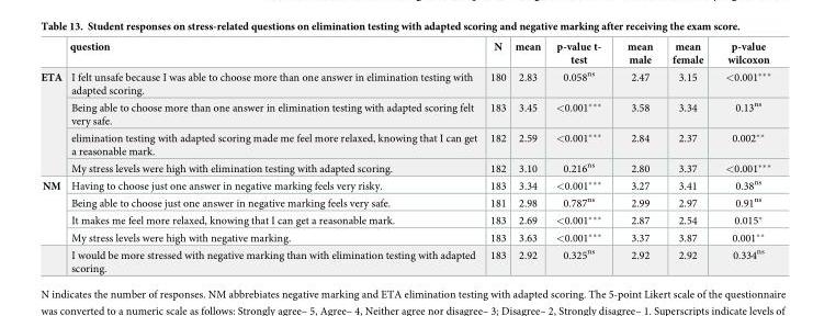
<table><thead><tr><td></td><td>question</td><td>N</td><td>mean</td><td>p-value t- test</td><td>mean male</td><td>mean female</td><td>p-value wilcoxon</td></tr></thead><tbody><tr><td rowspan="4">ETA</td><td>I felt unsafe because I was able to choose more than one answer in elimination testing with adapted scoring.</td><td>180</td><td>2.83</td><td>0.058<sup>ns</sup></td><td>2.47</td><td>3.15</td><td>&lt;0.001***</td></tr><tr><td>Being able to choose more than one answer in elimination testing with adapted scoring felt very safe.</td><td>183</td><td>3.45</td><td>&lt;0.001***</td><td>3.58</td><td>3.34</td><td>0.13<sup>ns</sup></td></tr><tr><td>elimination testing with adapted scoring made me feel more relaxed, knowing that I can get a reasonable mark.</td><td>182</td><td>2.59</td><td>&lt;0.001***</td><td>2.84</td><td>2.37</td><td>0.002**</td></tr><tr><td>My stress levels were high with elimination testing with adapted scoring.</td><td>182</td><td>3.10</td><td>0.216<sup>ns</sup></td><td>2.80</td><td>3.37</td><td>&lt;0.001***</td></tr><tr><td rowspan="5">NM</td><td>Having to choose just one answer in negative marking feels very risky.</td><td>183</td><td>3.34</td><td>&lt;0.001***</td><td>3.27</td><td>3.41</td><td>0.38<sup>ns</sup></td></tr><tr><td>Being able to choose just one answer in negative marking feels very safe.</td><td>181</td><td>2.98</td><td>0.787<sup>ns</sup></td><td>2.99</td><td>2.97</td><td>0.91<sup>ns</sup></td></tr><tr><td>It makes me feel more relaxed, knowing that I can get a reasonable mark.</td><td>183</td><td>2.69</td><td>&lt;0.001***</td><td>2.87</td><td>2.54</td><td>0.015*</td></tr><tr><td>My stress levels were high with negative marking.</td><td>183</td><td>3.63</td><td>&lt;0.001***</td><td>3.37</td><td>3.87</td><td>0.001**</td></tr><tr><td>I would be more stressed with negative marking than with elimination testing with adapted scoring.</td><td>183</td><td>2.92</td><td>0.325<sup>ns</sup></td><td>2.92</td><td>2.92</td><td>0.334<sup>ns</sup></td></tr></tbody></table>